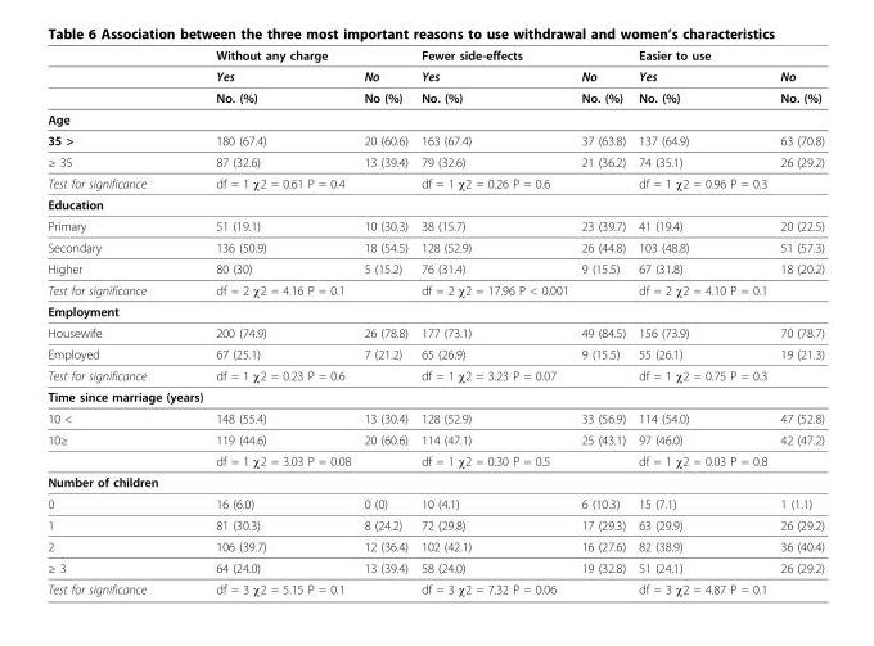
<table><thead><tr><td></td><td>Without any charge</td><td></td><td>Fewer side-effects</td><td></td><td>Easier to use</td><td></td></tr></thead><tbody><tr><td></td><td>Yes</td><td>No</td><td>Yes</td><td>No</td><td>Yes</td><td>No</td></tr><tr><td></td><td>No. (%)</td><td>No (%)</td><td>No. (%)</td><td>No. (%)</td><td>No. (%)</td><td>No. (%)</td></tr><tr><td colspan="7">Age</td></tr><tr><td>35 &gt;</td><td>180 (67.4)</td><td>20 (60.6)</td><td>163 (67.4)</td><td>37 (63.8)</td><td>137 (64.9)</td><td>63 (70.8)</td></tr><tr><td>≥ 35</td><td>87 (32.6)</td><td>13 (39.4)</td><td>79 (32.6)</td><td>21 (36.2)</td><td>74 (35.1)</td><td>26 (29.2)</td></tr><tr><td>Test for significance</td><td>df = 1 χ2 = 0.61 P = 0.4</td><td></td><td>df = 1 χ2 = 0.26 P = 0.6</td><td></td><td>df = 1 χ2 = 0.96 P = 0.3</td><td></td></tr><tr><td colspan="7">Education</td></tr><tr><td>Primary</td><td>51 (19.1)</td><td>10 (30.3)</td><td>38 (15.7)</td><td>23 (39.7)</td><td>41 (19.4)</td><td>20 (22.5)</td></tr><tr><td>Secondary</td><td>136 (50.9)</td><td>18 (54.5)</td><td>128 (52.9)</td><td>26 (44.8)</td><td>103 (48.8)</td><td>51 (57.3)</td></tr><tr><td>Higher</td><td>80 (30)</td><td>5 (15.2)</td><td>76 (31.4)</td><td>9 (15.5)</td><td>67 (31.8)</td><td>18 (20.2)</td></tr><tr><td>Test for significance</td><td>df = 2 χ2 = 4.16 P = 0.1</td><td></td><td>df = 2 χ2 = 17.96 P &lt; 0.001</td><td></td><td>df = 2 χ2 = 4.10 P = 0.1</td><td></td></tr><tr><td colspan="7">Employment</td></tr><tr><td>Housewife</td><td>200 (74.9)</td><td>26 (78.8)</td><td>177 (73.1)</td><td>49 (84.5)</td><td>156 (73.9)</td><td>70 (78.7)</td></tr><tr><td>Employed</td><td>67 (25.1)</td><td>7 (21.2)</td><td>65 (26.9)</td><td>9 (15.5)</td><td>55 (26.1)</td><td>19 (21.3)</td></tr><tr><td>Test for significance</td><td>df = 1 χ2 = 0.23 P = 0.6</td><td></td><td>df = 1 χ2 = 3.23 P = 0.07</td><td></td><td>df = 1 χ2 = 0.75 P = 0.3</td><td></td></tr><tr><td colspan="7">Time since marriage (years)</td></tr><tr><td>10 &lt;</td><td>148 (55.4)</td><td>13 (30.4)</td><td>128 (52.9)</td><td>33 (56.9)</td><td>114 (54.0)</td><td>47 (52.8)</td></tr><tr><td rowspan="2">10≥</td><td>119 (44.6)</td><td>20 (60.6)</td><td>114 (47.1)</td><td>25 (43.1)</td><td>97 (46.0)</td><td>42 (47.2)</td></tr><tr><td>df = 1 χ2 = 3.03 P = 0.08</td><td></td><td>df = 1 χ2 = 0.30 P = 0.5</td><td></td><td>df = 1 χ2 = 0.03 P = 0.8</td><td></td></tr><tr><td colspan="7">Number of children</td></tr><tr><td>0</td><td>16 (6.0)</td><td>0 (0)</td><td>10 (4.1)</td><td>6 (10.3)</td><td>15 (7.1)</td><td>1 (1.1)</td></tr><tr><td>1</td><td>81 (30.3)</td><td>8 (24.2)</td><td>72 (29.8)</td><td>17 (29.3)</td><td>63 (29.9)</td><td>26 (29.2)</td></tr><tr><td>2</td><td>106 (39.7)</td><td>12 (36.4)</td><td>102 (42.1)</td><td>16 (27.6)</td><td>82 (38.9)</td><td>36 (40.4)</td></tr><tr><td>≥ 3</td><td>64 (24.0)</td><td>13 (39.4)</td><td>58 (24.0)</td><td>19 (32.8)</td><td>51 (24.1)</td><td>26 (29.2)</td></tr><tr><td>Test for significance</td><td>df = 3 χ2 = 5.15 P = 0.1</td><td></td><td>df = 3 χ2 = 7.32 P = 0.06</td><td></td><td>df = 3 χ2 = 4.87 P = 0.1</td><td></td></tr></tbody></table>